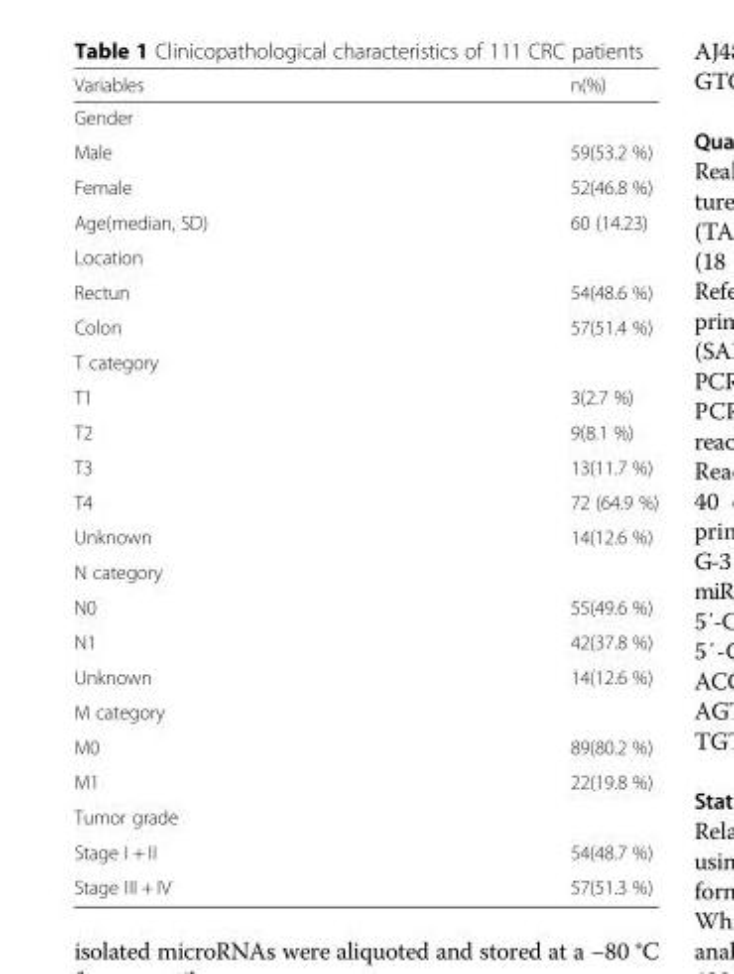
<table><thead><tr><td>Variables</td><td>n(%)</td></tr></thead><tbody><tr><td colspan="2">Gender</td></tr><tr><td>Male</td><td>59(53.2 %)</td></tr><tr><td>Female</td><td>52(46.8 %)</td></tr><tr><td>Age(median, SD)</td><td>60 (14.23)</td></tr><tr><td colspan="2">Location</td></tr><tr><td>Rectun</td><td>54(48.6 %)</td></tr><tr><td>Colon</td><td>57(51.4 %)</td></tr><tr><td colspan="2">T category</td></tr><tr><td>T1</td><td>3(2.7 %)</td></tr><tr><td>T2</td><td>9(8.1 %)</td></tr><tr><td>T3</td><td>13(11.7 %)</td></tr><tr><td>T4</td><td>72 (64.9 %)</td></tr><tr><td>Unknown</td><td>14(12.6 %)</td></tr><tr><td colspan="2">N category</td></tr><tr><td>N0</td><td>55(49.6 %)</td></tr><tr><td>N1</td><td>42(37.8 %)</td></tr><tr><td>Unknown</td><td>14(12.6 %)</td></tr><tr><td colspan="2">M category</td></tr><tr><td>M0</td><td>89(80.2 %)</td></tr><tr><td>M1</td><td>22(19.8 %)</td></tr><tr><td colspan="2">Tumor grade</td></tr><tr><td>Stage I + II</td><td>54(48.7 %)</td></tr><tr><td>Stage III + IV</td><td>57(51.3 %)</td></tr></tbody></table>